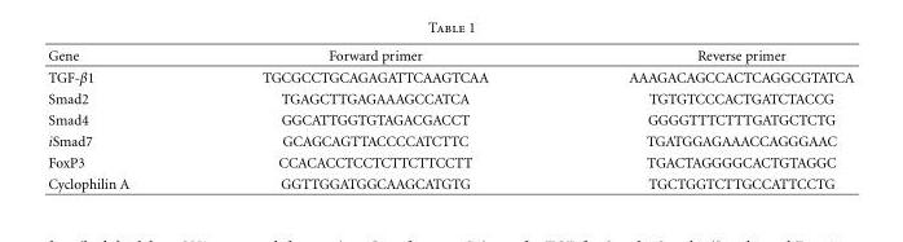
<table><thead><tr><td>Gene</td><td>Forward primer</td><td>Reverse primer</td></tr></thead><tbody><tr><td>TGF-β1</td><td>TGCGCCTGCAGAGATTCAAGTCAA</td><td>AAAGACAGCCACTCAGGCGTATCA</td></tr><tr><td>Smad2</td><td>TGAGCTTGAGAAAGCCATCA</td><td>TGTGTCCCACTGATCTACCG</td></tr><tr><td>Smad4</td><td>GGCATTGGTGTAGACGACCT</td><td>GGGGTTTCTTTGATGCTCTG</td></tr><tr><td>iSmad7</td><td>GCAGCAGTTACCCCATCTTC</td><td>TGATGGAGAAACCAGGGAAC</td></tr><tr><td>FoxP3</td><td>CCACACCTCCTCTTCTTCCTT</td><td>TGACTAGGGGCACTGTAGGC</td></tr><tr><td>Cyclophilin A</td><td>GGTTGGATGGCAAGCATGTG</td><td>TGCTGGTCTTGCCATTCCTG</td></tr></tbody></table>